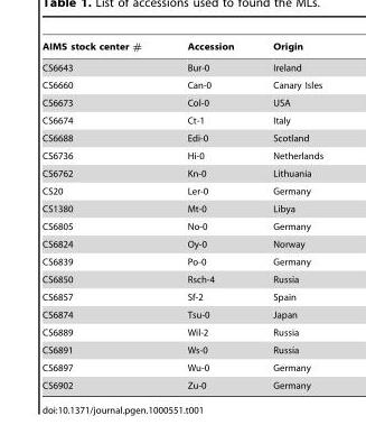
<table><thead><tr><td>AIMS stock center #</td><td>Accession</td><td>Origin</td></tr></thead><tbody><tr><td>CS6643</td><td>Bur-0</td><td>Ireland</td></tr><tr><td>CS6660</td><td>Can-0</td><td>Canary Isles</td></tr><tr><td>CS6673</td><td>Col-0</td><td>USA</td></tr><tr><td>CS6674</td><td>Ct-1</td><td>Italy</td></tr><tr><td>CS6688</td><td>Edi-0</td><td>Scotland</td></tr><tr><td>CS6736</td><td>Hi-0</td><td>Netherlands</td></tr><tr><td>CS6762</td><td>Kn-0</td><td>Lithuania</td></tr><tr><td>CS20</td><td>Ler-0</td><td>Germany</td></tr><tr><td>CS1380</td><td>Mt-0</td><td>Libya</td></tr><tr><td>CS6805</td><td>No-0</td><td>Germany</td></tr><tr><td>CS6824</td><td>Oy-0</td><td>Norway</td></tr><tr><td>CS6839</td><td>Po-0</td><td>Germany</td></tr><tr><td>CS6850</td><td>Rsch-4</td><td>Russia</td></tr><tr><td>CS6857</td><td>Sf-2</td><td>Spain</td></tr><tr><td>CS6874</td><td>Tsu-0</td><td>Japan</td></tr><tr><td>CS6889</td><td>Wil-2</td><td>Russia</td></tr><tr><td>CS6891</td><td>Ws-0</td><td>Russia</td></tr><tr><td>CS6897</td><td>Wu-0</td><td>Germany</td></tr><tr><td>CS6902</td><td>Zu-0</td><td>Germany</td></tr></tbody></table>